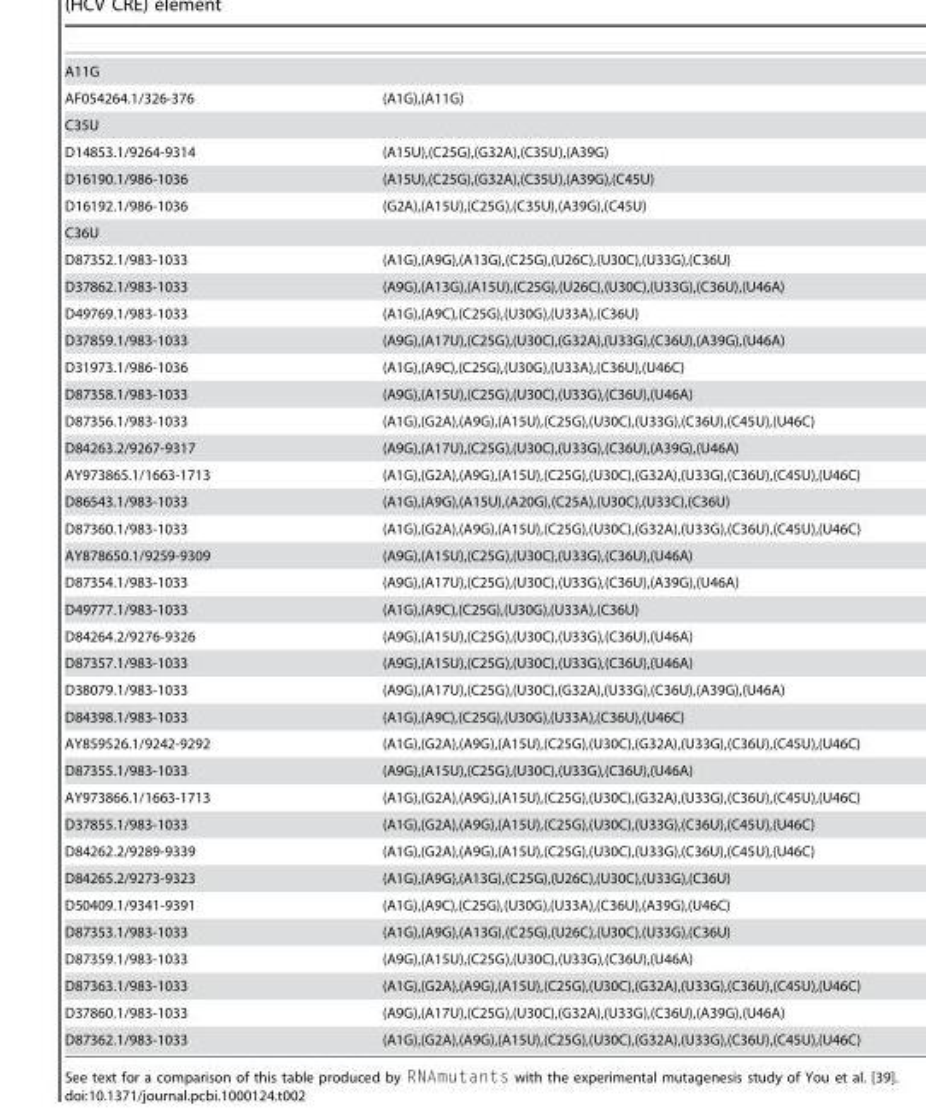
<table><tbody><tr><td colspan="2">A11G</td></tr><tr><td>AF054264.1/326-376</td><td>(A1G),(A11G)</td></tr><tr><td colspan="2">C35U</td></tr><tr><td>D14853.1/9264-9314</td><td>(A15U),(C25G),(G32A),(C35U),(A39G)</td></tr><tr><td>D16190.1/986-1036</td><td>(A15U),(C25G),(G32A),(C35U),(A39G),(C45U)</td></tr><tr><td>D16192.1/986-1036</td><td>(G2A),(A15U),(C25G),(C35U),(A39G),(C45U)</td></tr><tr><td colspan="2">C36U</td></tr><tr><td>D87352.1/983-1033</td><td>(A1G),(A9G),(A13G),(C25G),(U26C),(U30C),(U33G),(C36U)</td></tr><tr><td>D37862.1/983-1033</td><td>(A9G),(A13G),(A15U),(C25G),(U26C),(U30C),(U33G),(C36U),(U46A)</td></tr><tr><td>D49769.1/983-1033</td><td>(A1G),(A9C),(C25G),(U30G),(U33A),(C36U)</td></tr><tr><td>D37859.1/983-1033</td><td>(A9G),(A17U),(C25G),(U30C),(G32A),(U33G),(C36U),(A39G),(U46A)</td></tr><tr><td>D31973.1/986-1036</td><td>(A1G),(A9C),(C25G),(U30G),(U33A),(C36U),(U46C)</td></tr><tr><td>D87358.1/983-1033</td><td>(A9G),(A15U),(C25G),(U30C),(U33G),(C36U),(U46A)</td></tr><tr><td>D87356.1/983-1033</td><td>(A1G),(G2A),(A9G),(A15U),(C25G),(U30C),(U33G),(C36U),(C45U),(U46C)</td></tr><tr><td>D84263.2/9267-9317</td><td>(A9G),(A17U),(C25G),(U30C),(U33G),(C36U),(A39G),(U46A)</td></tr><tr><td>AY973865.1/1663-1713</td><td>(A1G),(G2A),(A9G),(A15U),(C25G),(U30C),(G32A),(U33G),(C36U),(C45U),(U46C)</td></tr><tr><td>D86543.1/983-1033</td><td>(A1G),(A9G),(A15U),(A20G),(C25A),(U30C),(U33C),(C36U)</td></tr><tr><td>D87360.1/983-1033</td><td>(A1G),(G2A),(A9G),(A15U),(C25G),(U30C),(G32A),(U33G),(C36U),(C45U),(U46C)</td></tr><tr><td>AY878650.1/9259-9309</td><td>(A9G),(A15U),(C25G),(U30C),(U33G),(C36U),(U46A)</td></tr><tr><td>D87354.1/983-1033</td><td>(A9G),(A17U),(C25G),(U30C),(U33G),(C36U),(A39G),(U46A)</td></tr><tr><td>D49777.1/983-1033</td><td>(A1G),(A9C),(C25G),(U30G),(U33A),(C36U)</td></tr><tr><td>D84264.2/9276-9326</td><td>(A9G),(A15U),(C25G),(U30C),(U33G),(C36U),(U46A)</td></tr><tr><td>D87357.1/983-1033</td><td>(A9G),(A15U),(C25G),(U30C),(U33G),(C36U),(U46A)</td></tr><tr><td>D38079.1/983-1033</td><td>(A9G),(A17U),(C25G),(U30C),(G32A),(U33G),(C36U),(A39G),(U46A)</td></tr><tr><td>D84398.1/983-1033</td><td>(A1G),(A9C),(C25G),(U30G),(U33A),(C36U),(U46C)</td></tr><tr><td>AY859526.1/9242-9292</td><td>(A1G),(G2A),(A9G),(A15U),(C25G),(U30C),(G32A),(U33G),(C36U),(C45U),(U46C)</td></tr><tr><td>D87355.1/983-1033</td><td>(A9G),(A15U),(C25G),(U30C),(U33G),(C36U),(U46A)</td></tr><tr><td>AY973866.1/1663-1713</td><td>(A1G),(G2A),(A9G),(A15U),(C25G),(U30C),(G32A),(U33G),(C36U),(C45U),(U46C)</td></tr><tr><td>D37855.1/983-1033</td><td>(A1G),(G2A),(A9G),(A15U),(C25G),(U30C),(U33G),(C36U),(C45U),(U46C)</td></tr><tr><td>D84262.2/9289-9339</td><td>(A1G),(G2A),(A9G),(A15U),(C25G),(U30C),(U33G),(C36U),(C45U),(U46C)</td></tr><tr><td>D84265.2/9273-9323</td><td>(A1G),(A9G),(A13G),(C25G),(U26C),(U30C),(U33G),(C36U)</td></tr><tr><td>D50409.1/9341-9391</td><td>(A1G),(A9C),(C25G),(U30G),(U33A),(C36U),(A39G),(U46C)</td></tr><tr><td>D87353.1/983-1033</td><td>(A1G),(A9G),(A13G),(C25G),(U26C),(U30C),(U33G),(C36U)</td></tr><tr><td>D87359.1/983-1033</td><td>(A9G),(A15U),(C25G),(U30C),(U33G),(C36U),(U46A)</td></tr><tr><td>D87363.1/983-1033</td><td>(A1G),(G2A),(A9G),(A15U),(C25G),(U30C),(G32A),(U33G),(C36U),(C45U),(U46C)</td></tr><tr><td>D37860.1/983-1033</td><td>(A9G),(A17U),(C25G),(U30C),(G32A),(U33G),(C36U),(A39G),(U46A)</td></tr><tr><td>D87362.1/983-1033</td><td>(A1G),(G2A),(A9G),(A15U),(C25G),(U30C),(G32A),(U33G),(C36U),(C45U),(U46C)</td></tr></tbody></table>